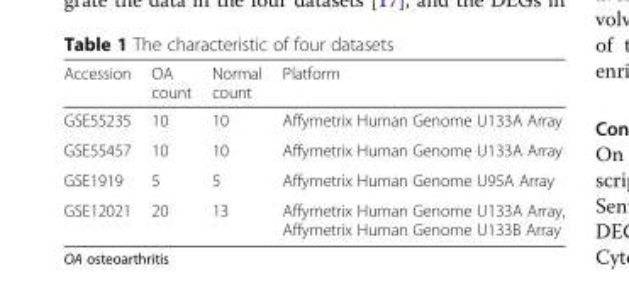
<table><thead><tr><td>Accession</td><td>OA count</td><td>Normal count</td><td>Platform</td></tr></thead><tbody><tr><td>GSE55235</td><td>10</td><td>10</td><td>Affymetrix Human Genome U133A Array</td></tr><tr><td>GSE55457</td><td>10</td><td>10</td><td>Affymetrix Human Genome U133A Array</td></tr><tr><td>GSE1919</td><td>5</td><td>5</td><td>Affymetrix Human Genome U95A Array</td></tr><tr><td>GSE12021</td><td>20</td><td>13</td><td>Affymetrix Human Genome U133A Array, Affymetrix Human Genome U133B Array</td></tr></tbody></table>